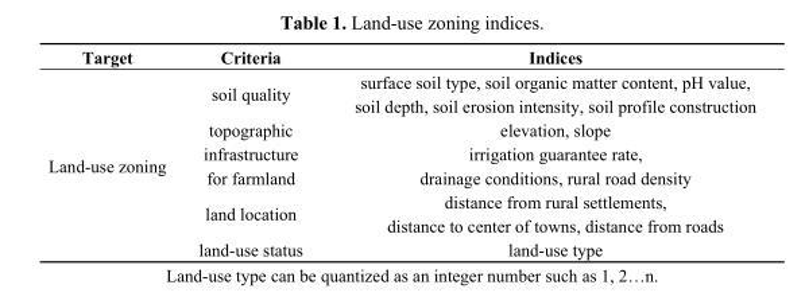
<table><thead><tr><td>Target</td><td>Criteria</td><td>Indices</td></tr></thead><tbody><tr><td rowspan="8">Land-use zoning</td><td rowspan="2">soil quality</td><td>surface soil type, soil organic matter content, pH value,</td></tr><tr><td>soil depth, soil erosion intensity, soil profile construction</td></tr><tr><td>topographic</td><td>elevation, slope</td></tr><tr><td>infrastructure</td><td>irrigation guarantee rate,</td></tr><tr><td>for farmland</td><td>drainage conditions, rural road density</td></tr><tr><td rowspan="2">land location</td><td>distance from rural settlements,</td></tr><tr><td>distance to center of towns, distance from roads</td></tr><tr><td>land-use status</td><td>land-use type</td></tr></tbody></table>